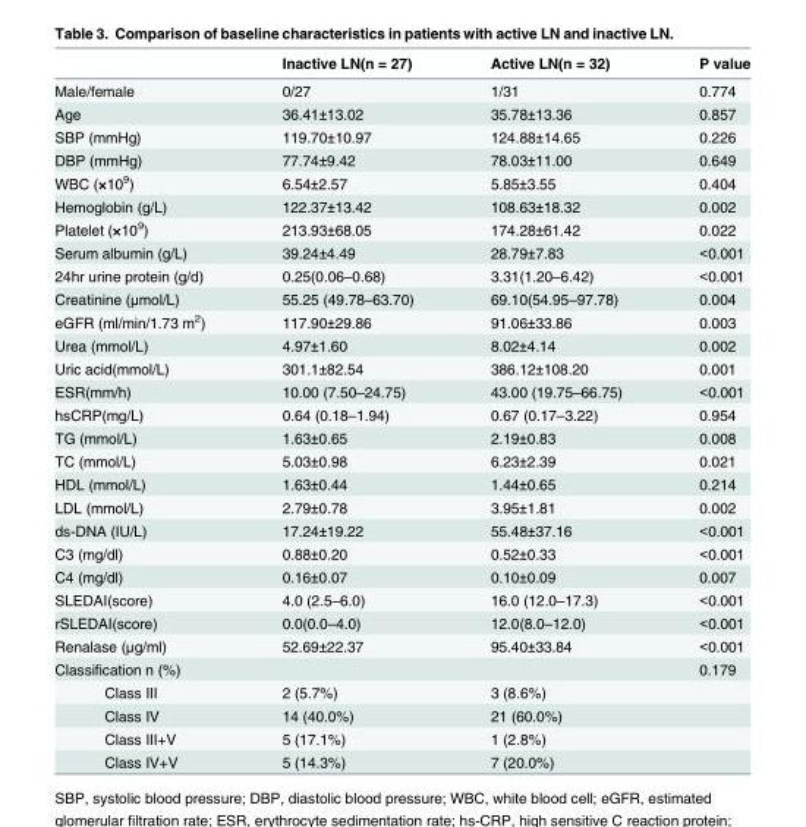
<table><thead><tr><td></td><td>Inactive LN(n = 27)</td><td>Active LN(n = 32)</td><td>P value</td></tr></thead><tbody><tr><td>Male/female</td><td>0/27</td><td>1/31</td><td>0.774</td></tr><tr><td>Age</td><td>36.41±13.02</td><td>35.78±13.36</td><td>0.857</td></tr><tr><td>SBP (mmHg)</td><td>119.70±10.97</td><td>124.88±14.65</td><td>0.226</td></tr><tr><td>DBP (mmHg)</td><td>77.74±9.42</td><td>78.03±11.00</td><td>0.649</td></tr><tr><td>WBC (×10<sup>9</sup>)</td><td>6.54±2.57</td><td>5.85±3.55</td><td>0.404</td></tr><tr><td>Hemoglobin (g/L)</td><td>122.37±13.42</td><td>108.63±18.32</td><td>0.002</td></tr><tr><td>Platelet (×10<sup>9</sup>)</td><td>213.93±68.05</td><td>174.28±61.42</td><td>0.022</td></tr><tr><td>Serum albumin (g/L)</td><td>39.24±4.49</td><td>28.79±7.83</td><td>&lt;0.001</td></tr><tr><td>24hr urine protein (g/d)</td><td>0.25(0.06–0.68)</td><td>3.31(1.20–6.42)</td><td>&lt;0.001</td></tr><tr><td>Creatinine (μmol/L)</td><td>55.25 (49.78–63.70)</td><td>69.10(54.95–97.78)</td><td>0.004</td></tr><tr><td>eGFR (ml/min/1.73 m<sup>2</sup>)</td><td>117.90±29.86</td><td>91.06±33.86</td><td>0.003</td></tr><tr><td>Urea (mmol/L)</td><td>4.97±1.60</td><td>8.02±4.14</td><td>0.002</td></tr><tr><td>Uric acid(mmol/L)</td><td>301.1±82.54</td><td>386.12±108.20</td><td>0.001</td></tr><tr><td>ESR(mm/h)</td><td>10.00 (7.50–24.75)</td><td>43.00 (19.75–66.75)</td><td>&lt;0.001</td></tr><tr><td>hsCRP(mg/L)</td><td>0.64 (0.18–1.94)</td><td>0.67 (0.17–3.22)</td><td>0.954</td></tr><tr><td>TG (mmol/L)</td><td>1.63±0.65</td><td>2.19±0.83</td><td>0.008</td></tr><tr><td>TC (mmol/L)</td><td>5.03±0.98</td><td>6.23±2.39</td><td>0.021</td></tr><tr><td>HDL (mmol/L)</td><td>1.63±0.44</td><td>1.44±0.65</td><td>0.214</td></tr><tr><td>LDL (mmol/L)</td><td>2.79±0.78</td><td>3.95±1.81</td><td>0.002</td></tr><tr><td>ds-DNA (IU/L)</td><td>17.24±19.22</td><td>55.48±37.16</td><td>&lt;0.001</td></tr><tr><td>C3 (mg/dl)</td><td>0.88±0.20</td><td>0.52±0.33</td><td>&lt;0.001</td></tr><tr><td>C4 (mg/dl)</td><td>0.16±0.07</td><td>0.10±0.09</td><td>0.007</td></tr><tr><td>SLEDAI(score)</td><td>4.0 (2.5–6.0)</td><td>16.0 (12.0–17.3)</td><td>&lt;0.001</td></tr><tr><td>rSLEDAI(score)</td><td>0.0(0.0–4.0)</td><td>12.0(8.0–12.0)</td><td>&lt;0.001</td></tr><tr><td>Renalase (μg/ml)</td><td>52.69±22.37</td><td>95.40±33.84</td><td>&lt;0.001</td></tr><tr><td>Classification n (%)</td><td></td><td></td><td>0.179</td></tr><tr><td>Class III</td><td>2 (5.7%)</td><td>3 (8.6%)</td><td></td></tr><tr><td>Class IV</td><td>14 (40.0%)</td><td>21 (60.0%)</td><td></td></tr><tr><td>Class III+V</td><td>5 (17.1%)</td><td>1 (2.8%)</td><td></td></tr><tr><td>Class IV+V</td><td>5 (14.3%)</td><td>7 (20.0%)</td><td></td></tr></tbody></table>